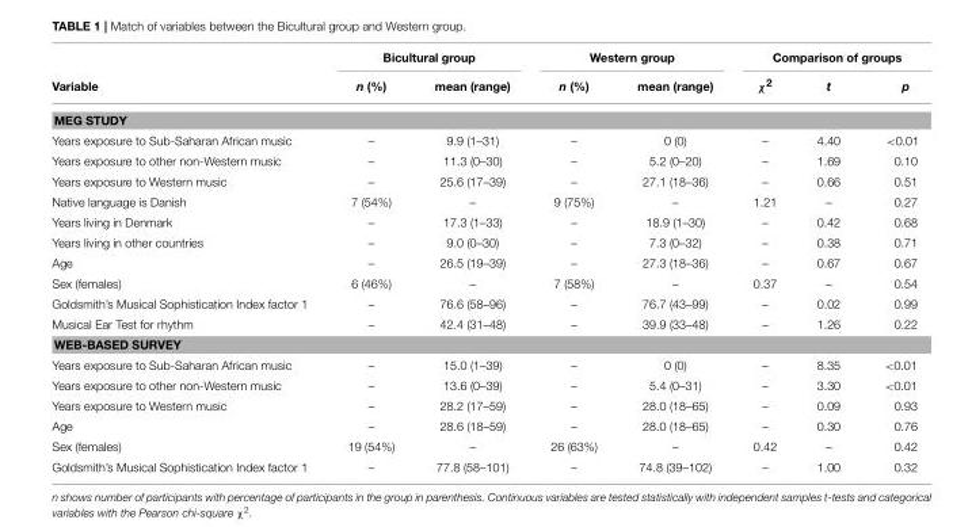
<table><thead><tr><td rowspan="2">Variable</td><td colspan="2">Bicultural group</td><td colspan="2">Western group</td><td colspan="3">Comparison of groups</td></tr><tr><td>n (%)</td><td>mean (range)</td><td>n (%)</td><td>mean (range)</td><td>χ<sup>2</sup></td><td>t</td><td>p</td></tr></thead><tbody><tr><td colspan="8">MEG STUDY</td></tr><tr><td>Years exposure to Sub-Saharan African music</td><td>–</td><td>9.9 (1–31)</td><td>–</td><td>0 (0)</td><td>–</td><td>4.40</td><td>&lt;0.01</td></tr><tr><td>Years exposure to other non-Western music</td><td>–</td><td>11.3 (0–30)</td><td>–</td><td>5.2 (0–20)</td><td>–</td><td>1.69</td><td>0.10</td></tr><tr><td>Years exposure to Western music</td><td>–</td><td>25.6 (17–39)</td><td>–</td><td>27.1 (18–36)</td><td>–</td><td>0.66</td><td>0.51</td></tr><tr><td>Native language is Danish</td><td>7 (54%)</td><td>–</td><td>9 (75%)</td><td>–</td><td>1.21</td><td>–</td><td>0.27</td></tr><tr><td>Years living in Denmark</td><td>–</td><td>17.3 (1–33)</td><td>–</td><td>18.9 (1–30)</td><td>–</td><td>0.42</td><td>0.68</td></tr><tr><td>Years living in other countries</td><td>–</td><td>9.0 (0–30)</td><td>–</td><td>7.3 (0–32)</td><td>–</td><td>0.38</td><td>0.71</td></tr><tr><td>Age</td><td>–</td><td>26.5 (19–39)</td><td>–</td><td>27.3 (18–36)</td><td>–</td><td>0.67</td><td>0.67</td></tr><tr><td>Sex (females)</td><td>6 (46%)</td><td>–</td><td>7 (58%)</td><td>–</td><td>0.37</td><td>–</td><td>0.54</td></tr><tr><td>Goldsmith’s Musical Sophistication Index factor 1</td><td>–</td><td>76.6 (58–96)</td><td>–</td><td>76.7 (43–99)</td><td>–</td><td>0.02</td><td>0.99</td></tr><tr><td>Musical Ear Test for rhythm</td><td>–</td><td>42.4 (31–48)</td><td>–</td><td>39.9 (33–48)</td><td>–</td><td>1.26</td><td>0.22</td></tr><tr><td colspan="8">WEB-BASED SURVEY</td></tr><tr><td>Years exposure to Sub-Saharan African music</td><td>–</td><td>15.0 (1–39)</td><td>–</td><td>0 (0)</td><td>–</td><td>8.35</td><td>&lt;0.01</td></tr><tr><td>Years exposure to other non-Western music</td><td>–</td><td>13.6 (0–39)</td><td>–</td><td>5.4 (0–31)</td><td>–</td><td>3.30</td><td>&lt;0.01</td></tr><tr><td>Years exposure to Western music</td><td>–</td><td>28.2 (17–59)</td><td>–</td><td>28.0 (18–65)</td><td>–</td><td>0.09</td><td>0.93</td></tr><tr><td>Age</td><td>–</td><td>28.6 (18–59)</td><td>–</td><td>28.0 (18–65)</td><td>–</td><td>0.30</td><td>0.76</td></tr><tr><td>Sex (females)</td><td>19 (54%)</td><td>–</td><td>26 (63%)</td><td>–</td><td>0.42</td><td>–</td><td>0.42</td></tr><tr><td>Goldsmith’s Musical Sophistication Index factor 1</td><td>–</td><td>77.8 (58–101)</td><td>–</td><td>74.8 (39–102)</td><td>–</td><td>1.00</td><td>0.32</td></tr></tbody></table>